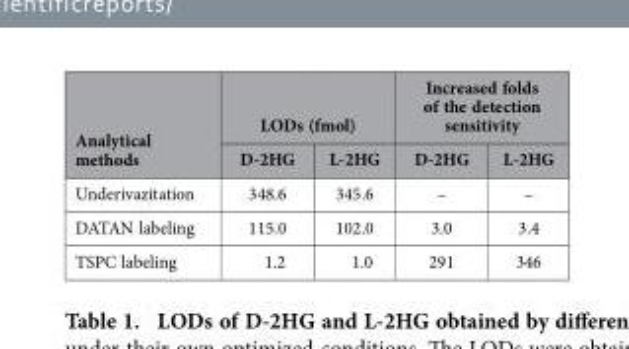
<table><thead><tr><td rowspan="2">Analytical methods</td><td colspan="2">LODs (fmol)</td><td colspan="2">Increased folds of the detection sensitivity</td></tr><tr><td>D-2HG</td><td>L-2HG</td><td>D-2HG</td><td>L-2HG</td></tr></thead><tbody><tr><td>Underivazitation</td><td>348.6</td><td>345.6</td><td>–</td><td>–</td></tr><tr><td>DATAN labeling</td><td>115.0</td><td>102.0</td><td>3.0</td><td>3.4</td></tr><tr><td>TSPC labeling</td><td>1.2</td><td>1.0</td><td>291</td><td>346</td></tr></tbody></table>